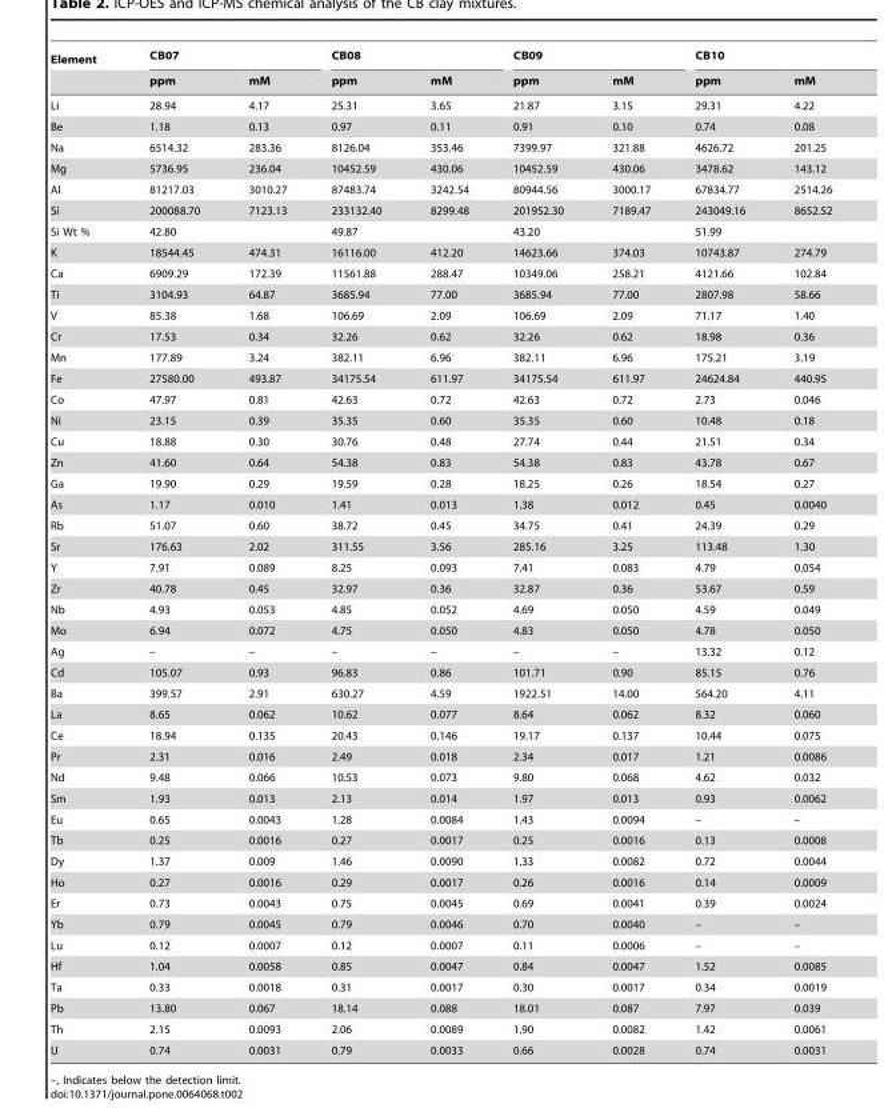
<table><thead><tr><td rowspan="2">Element</td><td colspan="2">CB07</td><td colspan="2">CB08</td><td colspan="2">CB09</td><td colspan="2">CB10</td></tr><tr><td>ppm</td><td>mM</td><td>ppm</td><td>mM</td><td>ppm</td><td>mM</td><td>ppm</td><td>mM</td></tr></thead><tbody><tr><td>Li</td><td>28.94</td><td>4.17</td><td>25.31</td><td>3.65</td><td>21.87</td><td>3.15</td><td>29.31</td><td>4.22</td></tr><tr><td>Be</td><td>1.18</td><td>0.13</td><td>0.97</td><td>0.11</td><td>0.91</td><td>0.10</td><td>0.74</td><td>0.08</td></tr><tr><td>Na</td><td>6514.32</td><td>283.36</td><td>8126.04</td><td>353.46</td><td>7399.97</td><td>321.88</td><td>4626.72</td><td>201.25</td></tr><tr><td>Mg</td><td>5736.95</td><td>236.04</td><td>10452.59</td><td>430.06</td><td>10452.59</td><td>430.06</td><td>3478.62</td><td>143.12</td></tr><tr><td>Al</td><td>81217.03</td><td>3010.27</td><td>87483.74</td><td>3242.54</td><td>80944.56</td><td>3000.17</td><td>67834.77</td><td>2514.26</td></tr><tr><td>Si</td><td>200088.70</td><td>7123.13</td><td>233132.40</td><td>8299.48</td><td>201952.30</td><td>7189.47</td><td>243049.16</td><td>8652.52</td></tr><tr><td>Si Wt %</td><td colspan="2">42.80</td><td colspan="2">49.87</td><td colspan="2">43.20</td><td colspan="2">51.99</td></tr><tr><td>K</td><td>18544.45</td><td>474.31</td><td>16116.00</td><td>412.20</td><td>14623.66</td><td>374.03</td><td>10743.87</td><td>274.79</td></tr><tr><td>Ca</td><td>6909.29</td><td>172.39</td><td>11561.88</td><td>288.47</td><td>10349.06</td><td>258.21</td><td>4121.66</td><td>102.84</td></tr><tr><td>Ti</td><td>3104.93</td><td>64.87</td><td>3685.94</td><td>77.00</td><td>3685.94</td><td>77.00</td><td>2807.98</td><td>58.66</td></tr><tr><td>V</td><td>85.38</td><td>1.68</td><td>106.69</td><td>2.09</td><td>106.69</td><td>2.09</td><td>71.17</td><td>1.40</td></tr><tr><td>Cr</td><td>17.53</td><td>0.34</td><td>32.26</td><td>0.62</td><td>32.26</td><td>0.62</td><td>18.98</td><td>0.36</td></tr><tr><td>Mn</td><td>177.89</td><td>3.24</td><td>382.11</td><td>6.96</td><td>382.11</td><td>6.96</td><td>175.21</td><td>3.19</td></tr><tr><td>Fe</td><td>27580.00</td><td>493.87</td><td>34175.54</td><td>611.97</td><td>34175.54</td><td>611.97</td><td>24624.84</td><td>440.95</td></tr><tr><td>Co</td><td>47.97</td><td>0.81</td><td>42.63</td><td>0.72</td><td>42.63</td><td>0.72</td><td>2.73</td><td>0.046</td></tr><tr><td>Ni</td><td>23.15</td><td>0.39</td><td>35.35</td><td>0.60</td><td>35.35</td><td>0.60</td><td>10.48</td><td>0.18</td></tr><tr><td>Cu</td><td>18.88</td><td>0.30</td><td>30.76</td><td>0.48</td><td>27.74</td><td>0.44</td><td>21.51</td><td>0.34</td></tr><tr><td>Zn</td><td>41.60</td><td>0.64</td><td>54.38</td><td>0.83</td><td>54.38</td><td>0.83</td><td>43.78</td><td>0.67</td></tr><tr><td>Ga</td><td>19.90</td><td>0.29</td><td>19.59</td><td>0.28</td><td>18.25</td><td>0.26</td><td>18.54</td><td>0.27</td></tr><tr><td>As</td><td>1.17</td><td>0.010</td><td>1.41</td><td>0.013</td><td>1.38</td><td>0.012</td><td>0.45</td><td>0.0040</td></tr><tr><td>Rb</td><td>51.07</td><td>0.60</td><td>38.72</td><td>0.45</td><td>34.75</td><td>0.41</td><td>24.39</td><td>0.29</td></tr><tr><td>Sr</td><td>176.63</td><td>2.02</td><td>311.55</td><td>3.56</td><td>285.16</td><td>3.25</td><td>113.48</td><td>1.30</td></tr><tr><td>Y</td><td>7.91</td><td>0.089</td><td>8.25</td><td>0.093</td><td>7.41</td><td>0.083</td><td>4.79</td><td>0.054</td></tr><tr><td>Zr</td><td>40.78</td><td>0.45</td><td>32.97</td><td>0.36</td><td>32.87</td><td>0.36</td><td>53.67</td><td>0.59</td></tr><tr><td>Nb</td><td>4.93</td><td>0.053</td><td>4.85</td><td>0.052</td><td>4.69</td><td>0.050</td><td>4.59</td><td>0.049</td></tr><tr><td>Mo</td><td>6.94</td><td>0.072</td><td>4.75</td><td>0.050</td><td>4.83</td><td>0.050</td><td>4.78</td><td>0.050</td></tr><tr><td>Ag</td><td>–</td><td>–</td><td>–</td><td>–</td><td>–</td><td>–</td><td>13.32</td><td>0.12</td></tr><tr><td>Cd</td><td>105.07</td><td>0.93</td><td>96.83</td><td>0.86</td><td>101.71</td><td>0.90</td><td>85.15</td><td>0.76</td></tr><tr><td>Ba</td><td>399.57</td><td>2.91</td><td>630.27</td><td>4.59</td><td>1922.51</td><td>14.00</td><td>564.20</td><td>4.11</td></tr><tr><td>La</td><td>8.65</td><td>0.062</td><td>10.62</td><td>0.077</td><td>8.64</td><td>0.062</td><td>8.32</td><td>0.060</td></tr><tr><td>Ce</td><td>18.94</td><td>0.135</td><td>20.43</td><td>0.146</td><td>19.17</td><td>0.137</td><td>10.44</td><td>0.075</td></tr><tr><td>Pr</td><td>2.31</td><td>0.016</td><td>2.49</td><td>0.018</td><td>2.34</td><td>0.017</td><td>1.21</td><td>0.0086</td></tr><tr><td>Nd</td><td>9.48</td><td>0.066</td><td>10.53</td><td>0.073</td><td>9.80</td><td>0.068</td><td>4.62</td><td>0.032</td></tr><tr><td>Sm</td><td>1.93</td><td>0.013</td><td>2.13</td><td>0.014</td><td>1.97</td><td>0.013</td><td>0.93</td><td>0.0062</td></tr><tr><td>Eu</td><td>0.65</td><td>0.0043</td><td>1.28</td><td>0.0084</td><td>1.43</td><td>0.0094</td><td>–</td><td>–</td></tr><tr><td>Tb</td><td>0.25</td><td>0.0016</td><td>0.27</td><td>0.0017</td><td>0.25</td><td>0.0016</td><td>0.13</td><td>0.0008</td></tr><tr><td>Dy</td><td>1.37</td><td>0.009</td><td>1.46</td><td>0.0090</td><td>1.33</td><td>0.0082</td><td>0.72</td><td>0.0044</td></tr><tr><td>Ho</td><td>0.27</td><td>0.0016</td><td>0.29</td><td>0.0017</td><td>0.26</td><td>0.0016</td><td>0.14</td><td>0.0009</td></tr><tr><td>Er</td><td>0.73</td><td>0.0043</td><td>0.75</td><td>0.0045</td><td>0.69</td><td>0.0041</td><td>0.39</td><td>0.0024</td></tr><tr><td>Yb</td><td>0.79</td><td>0.0045</td><td>0.79</td><td>0.0046</td><td>0.70</td><td>0.0040</td><td>–</td><td>–</td></tr><tr><td>Lu</td><td>0.12</td><td>0.0007</td><td>0.12</td><td>0.0007</td><td>0.11</td><td>0.0006</td><td>–</td><td>–</td></tr><tr><td>Hf</td><td>1.04</td><td>0.0058</td><td>0.85</td><td>0.0047</td><td>0.84</td><td>0.0047</td><td>1.52</td><td>0.0085</td></tr><tr><td>Ta</td><td>0.33</td><td>0.0018</td><td>0.31</td><td>0.0017</td><td>0.30</td><td>0.0017</td><td>0.34</td><td>0.0019</td></tr><tr><td>Pb</td><td>13.80</td><td>0.067</td><td>18.14</td><td>0.088</td><td>18.01</td><td>0.087</td><td>7.97</td><td>0.039</td></tr><tr><td>Th</td><td>2.15</td><td>0.0093</td><td>2.06</td><td>0.0089</td><td>1.90</td><td>0.0082</td><td>1.42</td><td>0.0061</td></tr><tr><td>U</td><td>0.74</td><td>0.0031</td><td>0.79</td><td>0.0033</td><td>0.66</td><td>0.0028</td><td>0.74</td><td>0.0031</td></tr></tbody></table>